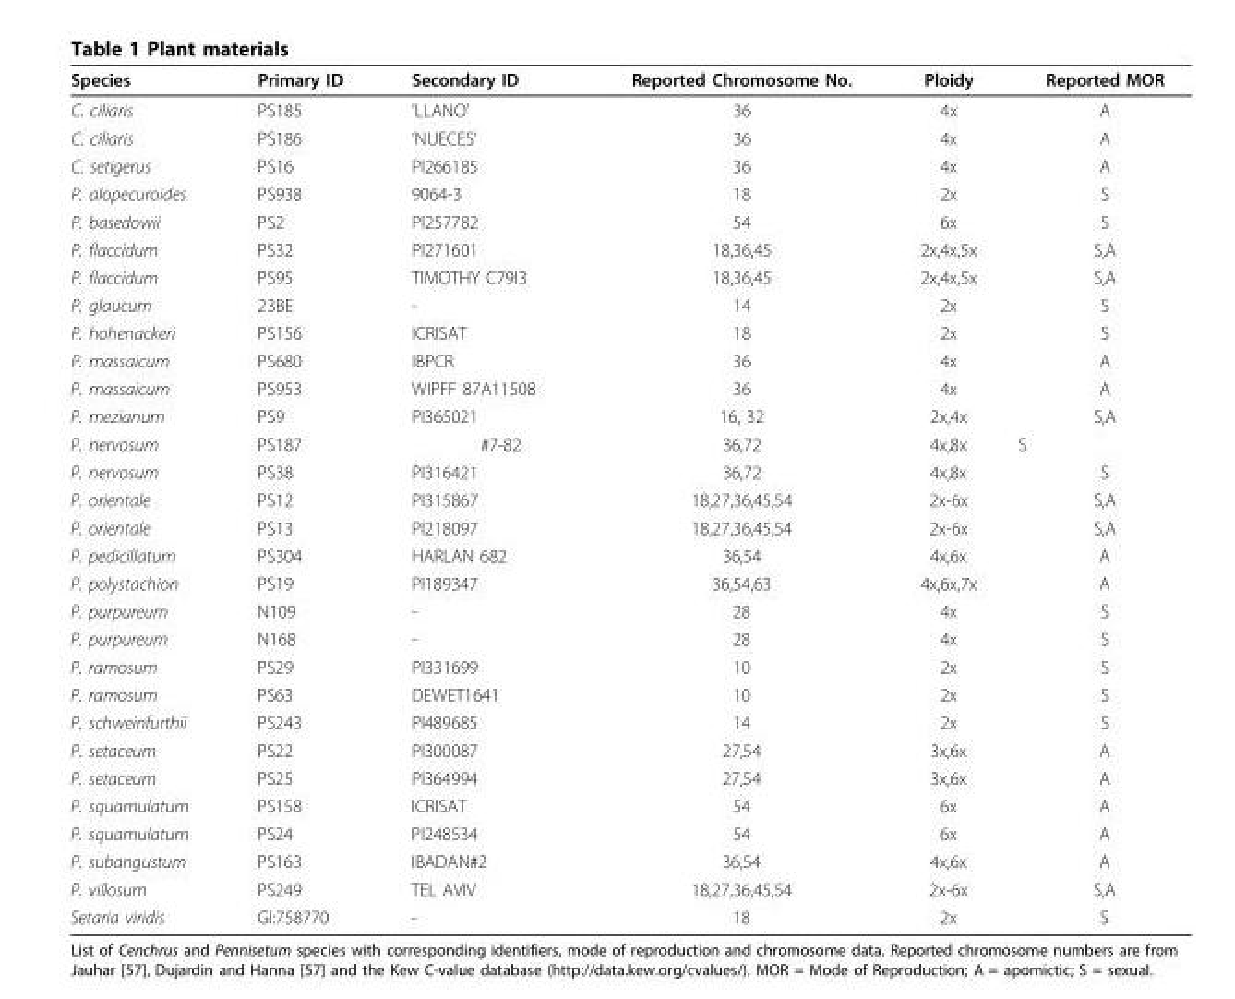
<table><thead><tr><td>Species</td><td>Primary ID</td><td>Secondary ID</td><td>Reported Chromosome No.</td><td>Ploidy</td><td>Reported MOR</td></tr></thead><tbody><tr><td>C. ciliaris</td><td>PS185</td><td>’LLANO’</td><td>36</td><td>4x</td><td>A</td></tr><tr><td>C. ciliaris</td><td>PS186</td><td>’NUECES’</td><td>36</td><td>4x</td><td>A</td></tr><tr><td>C. setigerus</td><td>PS16</td><td>PI266185</td><td>36</td><td>4x</td><td>A</td></tr><tr><td>P. alopecuroides</td><td>PS938</td><td>9064-3</td><td>18</td><td>2x</td><td>S</td></tr><tr><td>P. basedowii</td><td>PS2</td><td>PI257782</td><td>54</td><td>6x</td><td>S</td></tr><tr><td>P. flaccidum</td><td>PS32</td><td>PI271601</td><td>18,36,45</td><td>2x,4x,5x</td><td>S,A</td></tr><tr><td>P. flaccidum</td><td>PS95</td><td>TIMOTHY C79I3</td><td>18,36,45</td><td>2x,4x,5x</td><td>S,A</td></tr><tr><td>P. glaucum</td><td>23BE</td><td>-</td><td>14</td><td>2x</td><td>S</td></tr><tr><td>P. hohenackeri</td><td>PS156</td><td>ICRISAT</td><td>18</td><td>2x</td><td>S</td></tr><tr><td>P. massaicum</td><td>PS680</td><td>IBPCR</td><td>36</td><td>4x</td><td>A</td></tr><tr><td>P. massaicum</td><td>PS953</td><td>WIPFF 87A11508</td><td>36</td><td>4x</td><td>A</td></tr><tr><td>P. mezianum</td><td>PS9</td><td>PI365021</td><td>16, 32</td><td>2x,4x</td><td>S,A</td></tr><tr><td>P. nervosum</td><td>PS187</td><td>#7-82</td><td>36,72</td><td>4x,8x</td><td>S</td></tr><tr><td>P. nervosum</td><td>PS38</td><td>PI316421</td><td>36,72</td><td>4x,8x</td><td>S</td></tr><tr><td>P. orientale</td><td>PS12</td><td>PI315867</td><td>18,27,36,45,54</td><td>2x-6x</td><td>S,A</td></tr><tr><td>P. orientale</td><td>PS13</td><td>PI218097</td><td>18,27,36,45,54</td><td>2x-6x</td><td>S,A</td></tr><tr><td>P. pedicillatum</td><td>PS304</td><td>HARLAN 682</td><td>36,54</td><td>4x,6x</td><td>A</td></tr><tr><td>P. polystachion</td><td>PS19</td><td>PI189347</td><td>36,54,63</td><td>4x,6x,7x</td><td>A</td></tr><tr><td>P. purpureum</td><td>N109</td><td>-</td><td>28</td><td>4x</td><td>S</td></tr><tr><td>P. purpureum</td><td>N168</td><td>-</td><td>28</td><td>4x</td><td>S</td></tr><tr><td>P. ramosum</td><td>PS29</td><td>PI331699</td><td>10</td><td>2x</td><td>S</td></tr><tr><td>P. ramosum</td><td>PS63</td><td>DEWET1641</td><td>10</td><td>2x</td><td>S</td></tr><tr><td>P. schweinfurthii</td><td>PS243</td><td>PI489685</td><td>14</td><td>2x</td><td>S</td></tr><tr><td>P. setaceum</td><td>PS22</td><td>PI300087</td><td>27,54</td><td>3x,6x</td><td>A</td></tr><tr><td>P. setaceum</td><td>PS25</td><td>PI364994</td><td>27,54</td><td>3x,6x</td><td>A</td></tr><tr><td>P. squamulatum</td><td>PS158</td><td>ICRISAT</td><td>54</td><td>6x</td><td>A</td></tr><tr><td>P. squamulatum</td><td>PS24</td><td>PI248534</td><td>54</td><td>6x</td><td>A</td></tr><tr><td>P. subangustum</td><td>PS163</td><td>IBADAN#2</td><td>36,54</td><td>4x,6x</td><td>A</td></tr><tr><td>P. villosum</td><td>PS249</td><td>TEL AVIV</td><td>18,27,36,45,54</td><td>2x-6x</td><td>S,A</td></tr><tr><td>Setaria viridis</td><td>GI:758770</td><td>-</td><td>18</td><td>2x</td><td>S</td></tr></tbody></table>